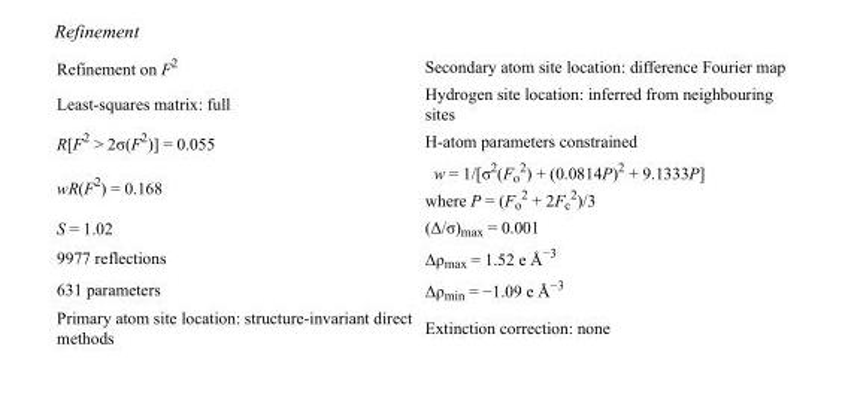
<table><tbody><tr><td>Refinement on F<sup>2</sup></td><td>Secondary atom site location: difference Fourier map</td></tr><tr><td>Least-squares matrix: full</td><td>Hydrogen site location: inferred from neighbouring sites</td></tr><tr><td>R[F<sup>2</sup> &gt; 2σ(F<sup>2</sup>)] = 0.055</td><td>H-atom parameters constrained</td></tr><tr><td>wR(F<sup>2</sup>) = 0.168</td><td>w = 1/[σ<sup>2</sup>(F<sub>o</sub> <sup>2</sup>) + (0.0814P)<sup>2</sup> + 9.1333P] where P = (F<sub>o</sub> <sup>2</sup> + 2F<sub>c</sub> <sup>2</sup>)/3</td></tr><tr><td>S = 1.02</td><td>(Δ/σ)<sub>max</sub> = 0.001</td></tr><tr><td>9977 reflections</td><td>Δρ<sub>max</sub> = 1.52 e Å<sup>−3</sup></td></tr><tr><td>631 parameters</td><td>Δρ<sub>min</sub> = −1.09 e Å<sup>−3</sup></td></tr><tr><td>Primary atom site location: structure-invariant direct methods</td><td>Extinction correction: none</td></tr></tbody></table>